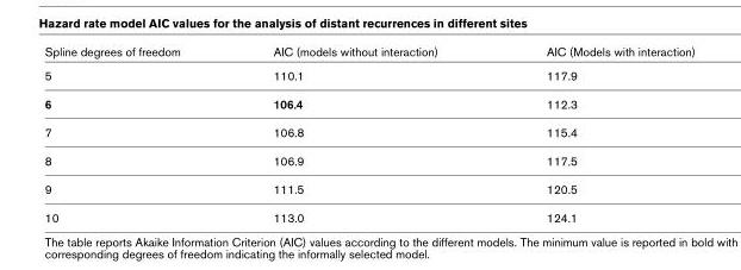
<table><thead><tr><td>Spline degrees of freedom</td><td>AIC (models without interaction)</td><td>AIC (Models with interaction)</td></tr></thead><tbody><tr><td>5</td><td>110.1</td><td>117.9</td></tr><tr><td>6</td><td>106.4</td><td>112.3</td></tr><tr><td>7</td><td>106.8</td><td>115.4</td></tr><tr><td>8</td><td>106.9</td><td>117.5</td></tr><tr><td>9</td><td>111.5</td><td>120.5</td></tr><tr><td>10</td><td>113.0</td><td>124.1</td></tr></tbody></table>